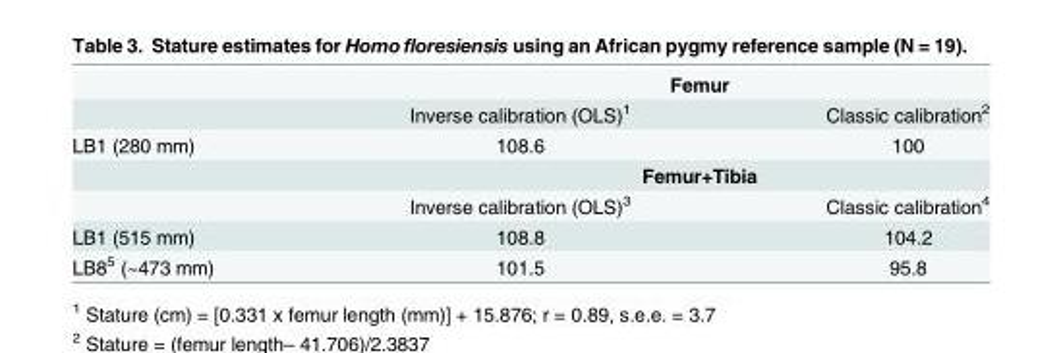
<table><thead><tr><td rowspan="2"></td><td colspan="2">Femur</td></tr><tr><td>Inverse calibration (OLS)<sup>1</sup></td><td>Classic calibration<sup>2</sup></td></tr></thead><tbody><tr><td rowspan="3">LB1 (280 mm)</td><td>108.6</td><td>100</td></tr><tr><td colspan="2">Femur+Tibia</td></tr><tr><td>Inverse calibration (OLS)<sup>3</sup></td><td>Classic calibration<sup>4</sup></td></tr><tr><td>LB1 (515 mm)</td><td>108.8</td><td>104.2</td></tr><tr><td>LB8<sup>5</sup> (~473 mm)</td><td>101.5</td><td>95.8</td></tr></tbody></table>